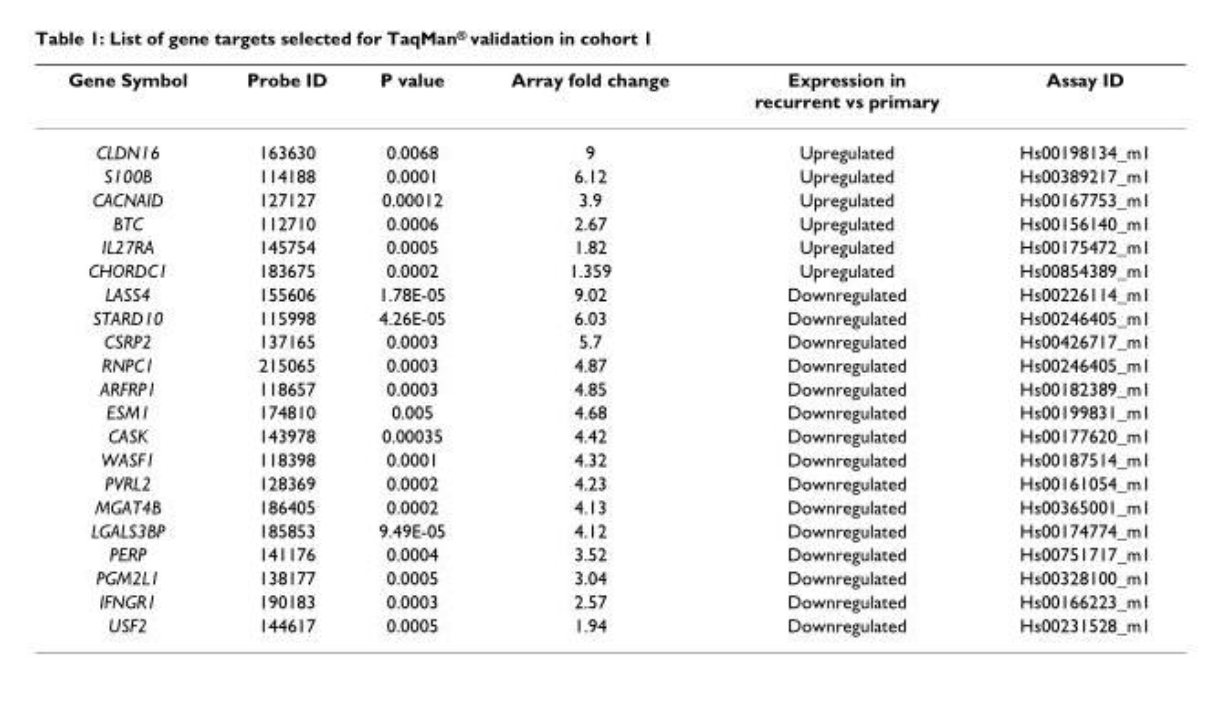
<table><thead><tr><td>Gene Symbol</td><td>Probe ID</td><td>P value</td><td>Array fold change</td><td>Expression in recurrent vs primary</td><td>Assay ID</td></tr></thead><tbody><tr><td>CLDN16</td><td>163630</td><td>0.0068</td><td>9</td><td>Upregulated</td><td>Hs00198134_m1</td></tr><tr><td>S100B</td><td>114188</td><td>0.0001</td><td>6.12</td><td>Upregulated</td><td>Hs00389217_m1</td></tr><tr><td>CACNAID</td><td>127127</td><td>0.00012</td><td>3.9</td><td>Upregulated</td><td>Hs00167753_m1</td></tr><tr><td>BTC</td><td>112710</td><td>0.0006</td><td>2.67</td><td>Upregulated</td><td>Hs00156140_m1</td></tr><tr><td>IL27RA</td><td>145754</td><td>0.0005</td><td>1.82</td><td>Upregulated</td><td>Hs00175472_m1</td></tr><tr><td>CHORDC1</td><td>183675</td><td>0.0002</td><td>1.359</td><td>Upregulated</td><td>Hs00854389_m1</td></tr><tr><td>LASS4</td><td>155606</td><td>1.78E-05</td><td>9.02</td><td>Downregulated</td><td>Hs00226114_m1</td></tr><tr><td>STARD10</td><td>115998</td><td>4.26E-05</td><td>6.03</td><td>Downregulated</td><td>Hs00246405_m1</td></tr><tr><td>CSRP2</td><td>137165</td><td>0.0003</td><td>5.7</td><td>Downregulated</td><td>Hs00426717_m1</td></tr><tr><td>RNPC1</td><td>215065</td><td>0.0003</td><td>4.87</td><td>Downregulated</td><td>Hs00246405_m1</td></tr><tr><td>ARFRP1</td><td>118657</td><td>0.0003</td><td>4.85</td><td>Downregulated</td><td>Hs00182389_m1</td></tr><tr><td>ESM1</td><td>174810</td><td>0.005</td><td>4.68</td><td>Downregulated</td><td>Hs00199831_m1</td></tr><tr><td>CASK</td><td>143978</td><td>0.00035</td><td>4.42</td><td>Downregulated</td><td>Hs00177620_m1</td></tr><tr><td>WASF1</td><td>118398</td><td>0.0001</td><td>4.32</td><td>Downregulated</td><td>Hs00187514_m1</td></tr><tr><td>PVRL2</td><td>128369</td><td>0.0002</td><td>4.23</td><td>Downregulated</td><td>Hs00161054_m1</td></tr><tr><td>MGAT4B</td><td>186405</td><td>0.0002</td><td>4.13</td><td>Downregulated</td><td>Hs00365001_m1</td></tr><tr><td>LGALS3BP</td><td>185853</td><td>9.49E-05</td><td>4.12</td><td>Downregulated</td><td>Hs00174774_m1</td></tr><tr><td>PERP</td><td>141176</td><td>0.0004</td><td>3.52</td><td>Downregulated</td><td>Hs00751717_m1</td></tr><tr><td>PGM2L1</td><td>138177</td><td>0.0005</td><td>3.04</td><td>Downregulated</td><td>Hs00328100_m1</td></tr><tr><td>IFNGR1</td><td>190183</td><td>0.0003</td><td>2.57</td><td>Downregulated</td><td>Hs00166223_m1</td></tr><tr><td>USF2</td><td>144617</td><td>0.0005</td><td>1.94</td><td>Downregulated</td><td>Hs00231528_m1</td></tr></tbody></table>